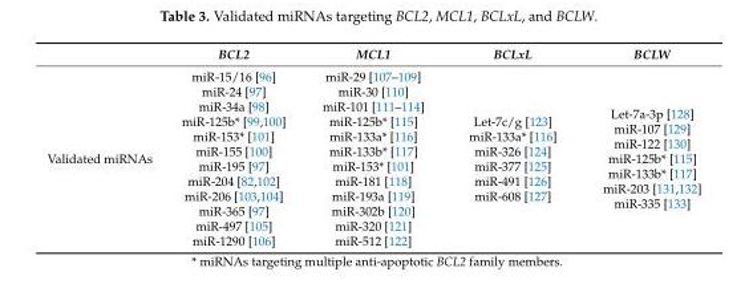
<table><thead><tr><td></td><td>BCL2</td><td>MCL1</td><td>BCLxL</td><td>BCLW</td></tr></thead><tbody><tr><td>Validated miRNAs</td><td>miR-15/16 [96] miR-24 [97] miR-34a [98] miR-125b* [99,100] miR-153* [101] miR-155 [100] miR-195 [97] miR-204 [82,102] miR-206 [103,104] miR-365 [97] miR-497 [105] miR-1290 [106]</td><td>miR-29 [107–109] miR-30 [110] miR-101 [111–114] miR-125b* [115] miR-133a* [116] miR-133b* [117] miR-153* [101] miR-181 [118] miR-193a [119] miR-302b [120] miR-320 [121] miR-512 [122]</td><td>Let-7c/g [123] miR-133a* [116] miR-326 [124] miR-377 [125] miR-491 [126] miR-608 [127]</td><td>Let-7a-3p [128] miR-107 [129] miR-122 [130] miR-125b* [115] miR-133b* [117] miR-203 [131,132] miR-335 [133]</td></tr></tbody></table>